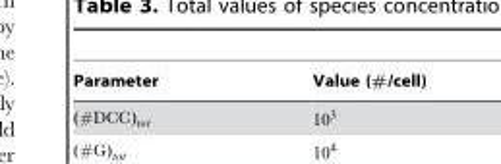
<table><thead><tr><td>Parameter</td><td>Value (#/cell)</td></tr></thead><tbody></tbody></table>